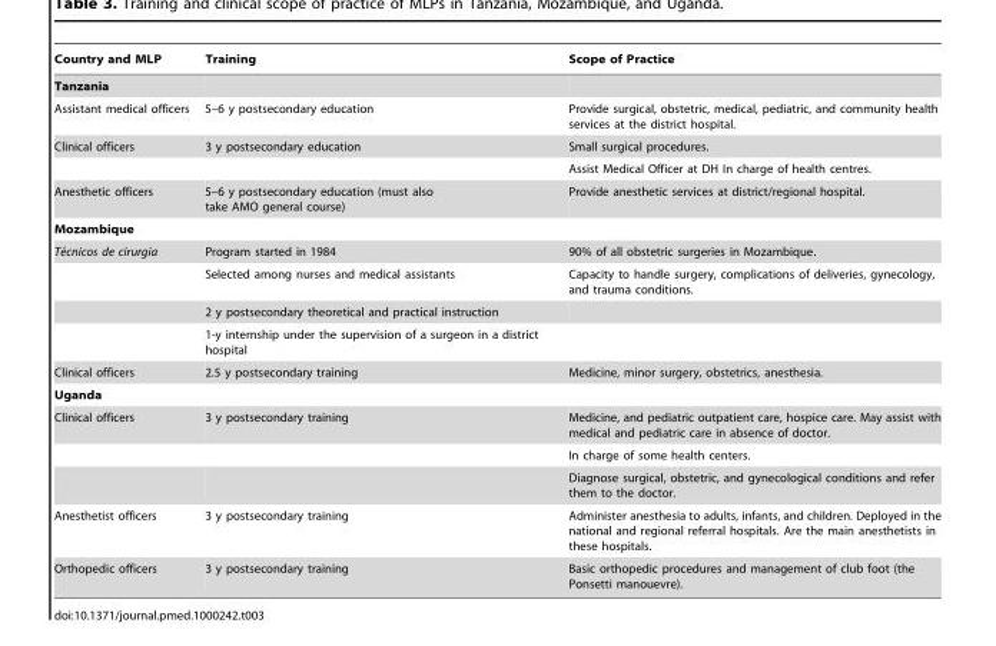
<table><thead><tr><td>Country and MLP</td><td>Training</td><td>Scope of Practice</td></tr></thead><tbody><tr><td colspan="3">Tanzania</td></tr><tr><td>Assistant medical officers</td><td>5–6 y postsecondary education</td><td>Provide surgical, obstetric, medical, pediatric, and community health services at the district hospital.</td></tr><tr><td rowspan="2">Clinical officers</td><td>3 y postsecondary education</td><td>Small surgical procedures.</td></tr><tr><td></td><td>Assist Medical Officer at DH In charge of health centres.</td></tr><tr><td>Anesthetic officers</td><td>5–6 y postsecondary education (must also take AMO general course)</td><td>Provide anesthetic services at district/regional hospital.</td></tr><tr><td colspan="3">Mozambique</td></tr><tr><td rowspan="4">Te´cnicos de cirurgia</td><td>Program started in 1984</td><td>90% of all obstetric surgeries in Mozambique.</td></tr><tr><td>Selected among nurses and medical assistants</td><td>Capacity to handle surgery, complications of deliveries, gynecology, and trauma conditions.</td></tr><tr><td>2 y postsecondary theoretical and practical instruction</td><td></td></tr><tr><td>1-y internship under the supervision of a surgeon in a district hospital</td><td></td></tr><tr><td>Clinical officers</td><td>2.5 y postsecondary training</td><td>Medicine, minor surgery, obstetrics, anesthesia.</td></tr><tr><td colspan="3">Uganda</td></tr><tr><td rowspan="3">Clinical officers</td><td>3 y postsecondary training</td><td>Medicine, and pediatric outpatient care, hospice care. May assist with medical and pediatric care in absence of doctor.</td></tr><tr><td></td><td>In charge of some health centers.</td></tr><tr><td></td><td>Diagnose surgical, obstetric, and gynecological conditions and refer them to the doctor.</td></tr><tr><td>Anesthetist officers</td><td>3 y postsecondary training</td><td>Administer anesthesia to adults, infants, and children. Deployed in the national and regional referral hospitals. Are the main anesthetists in these hospitals.</td></tr><tr><td>Orthopedic officers</td><td>3 y postsecondary training</td><td>Basic orthopedic procedures and management of club foot (the Ponsetti manouevre).</td></tr></tbody></table>